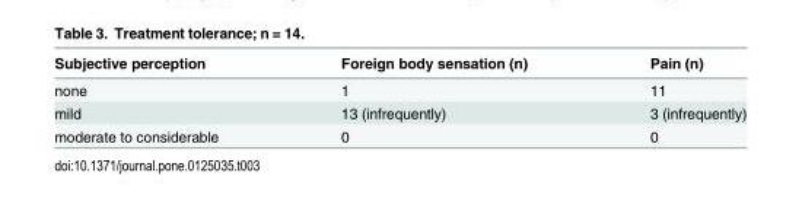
<table><thead><tr><td>Subjective perception</td><td>Foreign body sensation (n)</td><td>Pain (n)</td></tr></thead><tbody><tr><td>none</td><td>1</td><td>11</td></tr><tr><td>mild</td><td>13 (infrequently)</td><td>3 (infrequently)</td></tr><tr><td>moderate to considerable</td><td>0</td><td>0</td></tr></tbody></table>